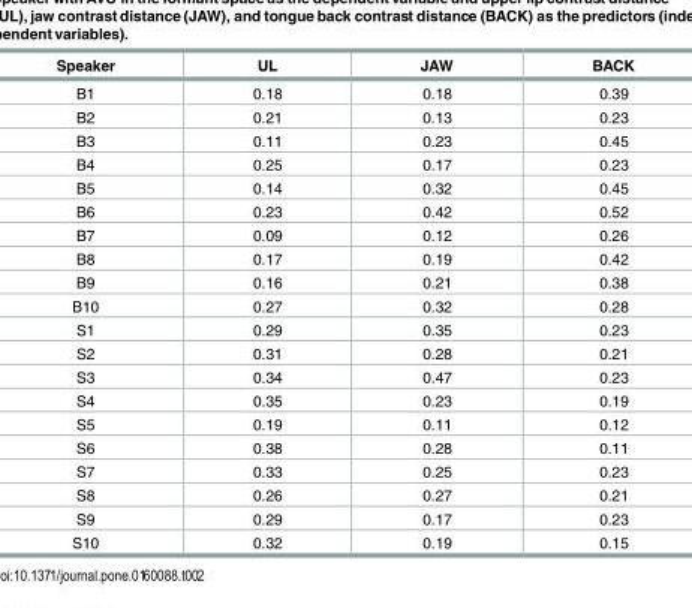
<table><thead><tr><td>Speaker</td><td>UL</td><td>JAW</td><td>BACK</td></tr></thead><tbody><tr><td>B1</td><td>0.18</td><td>0.18</td><td>0.39</td></tr><tr><td>B2</td><td>0.21</td><td>0.13</td><td>0.23</td></tr><tr><td>B3</td><td>0.11</td><td>0.23</td><td>0.45</td></tr><tr><td>B4</td><td>0.25</td><td>0.17</td><td>0.23</td></tr><tr><td>B5</td><td>0.14</td><td>0.32</td><td>0.45</td></tr><tr><td>B6</td><td>0.23</td><td>0.42</td><td>0.52</td></tr><tr><td>B7</td><td>0.09</td><td>0.12</td><td>0.26</td></tr><tr><td>B8</td><td>0.17</td><td>0.19</td><td>0.42</td></tr><tr><td>B9</td><td>0.16</td><td>0.21</td><td>0.38</td></tr><tr><td>B10</td><td>0.27</td><td>0.32</td><td>0.28</td></tr><tr><td>S1</td><td>0.29</td><td>0.35</td><td>0.23</td></tr><tr><td>S2</td><td>0.31</td><td>0.28</td><td>0.21</td></tr><tr><td>S3</td><td>0.34</td><td>0.47</td><td>0.23</td></tr><tr><td>S4</td><td>0.35</td><td>0.23</td><td>0.19</td></tr><tr><td>S5</td><td>0.19</td><td>0.11</td><td>0.12</td></tr><tr><td>S6</td><td>0.38</td><td>0.28</td><td>0.11</td></tr><tr><td>S7</td><td>0.33</td><td>0.25</td><td>0.23</td></tr><tr><td>S8</td><td>0.26</td><td>0.27</td><td>0.21</td></tr><tr><td>S9</td><td>0.29</td><td>0.17</td><td>0.23</td></tr><tr><td>S10</td><td>0.32</td><td>0.19</td><td>0.15</td></tr></tbody></table>